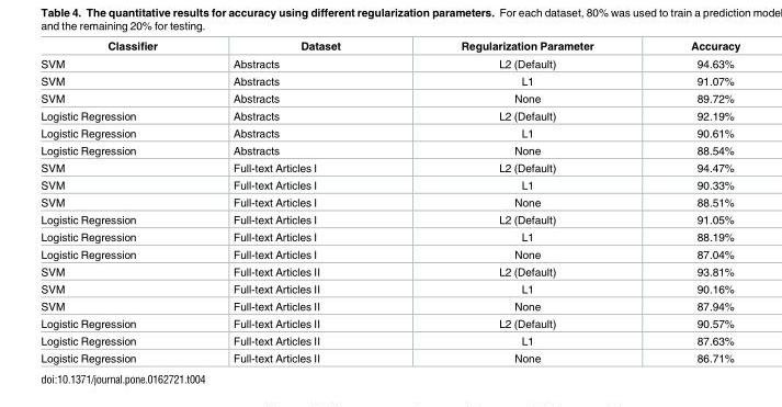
<table><thead><tr><td>Classifier</td><td>Dataset</td><td>Regularization Parameter</td><td>Accuracy</td></tr></thead><tbody><tr><td>SVM</td><td>Abstracts</td><td>L2 (Default)</td><td>94.63%</td></tr><tr><td>SVM</td><td>Abstracts</td><td>L1</td><td>91.07%</td></tr><tr><td>SVM</td><td>Abstracts</td><td>None</td><td>89.72%</td></tr><tr><td>Logistic Regression</td><td>Abstracts</td><td>L2 (Default)</td><td>92.19%</td></tr><tr><td>Logistic Regression</td><td>Abstracts</td><td>L1</td><td>90.61%</td></tr><tr><td>Logistic Regression</td><td>Abstracts</td><td>None</td><td>88.54%</td></tr><tr><td>SVM</td><td>Full-text Articles I</td><td>L2 (Default)</td><td>94.47%</td></tr><tr><td>SVM</td><td>Full-text Articles I</td><td>L1</td><td>90.33%</td></tr><tr><td>SVM</td><td>Full-text Articles I</td><td>None</td><td>88.51%</td></tr><tr><td>Logistic Regression</td><td>Full-text Articles I</td><td>L2 (Default)</td><td>91.05%</td></tr><tr><td>Logistic Regression</td><td>Full-text Articles I</td><td>L1</td><td>88.19%</td></tr><tr><td>Logistic Regression</td><td>Full-text Articles I</td><td>None</td><td>87.04%</td></tr><tr><td>SVM</td><td>Full-text Articles II</td><td>L2 (Default)</td><td>93.81%</td></tr><tr><td>SVM</td><td>Full-text Articles II</td><td>L1</td><td>90.16%</td></tr><tr><td>SVM</td><td>Full-text Articles II</td><td>None</td><td>87.94%</td></tr><tr><td>Logistic Regression</td><td>Full-text Articles II</td><td>L2 (Default)</td><td>90.57%</td></tr><tr><td>Logistic Regression</td><td>Full-text Articles II</td><td>L1</td><td>87.63%</td></tr><tr><td>Logistic Regression</td><td>Full-text Articles II</td><td>None</td><td>86.71%</td></tr></tbody></table>